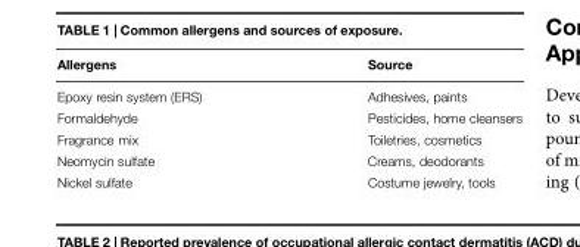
<table><thead><tr><td>Allergens</td><td>Source</td></tr></thead><tbody><tr><td>Epoxy resin system (ERS)</td><td>Adhesives, paints</td></tr><tr><td>Formaldehyde</td><td>Pesticides, home cleansers</td></tr><tr><td>Fragrance mix</td><td>Toiletries, cosmetics</td></tr><tr><td>Neomycin sulfate</td><td>Creams, deodorants</td></tr><tr><td>Nickel sulfate</td><td>Costume jewelry, tools</td></tr></tbody></table>